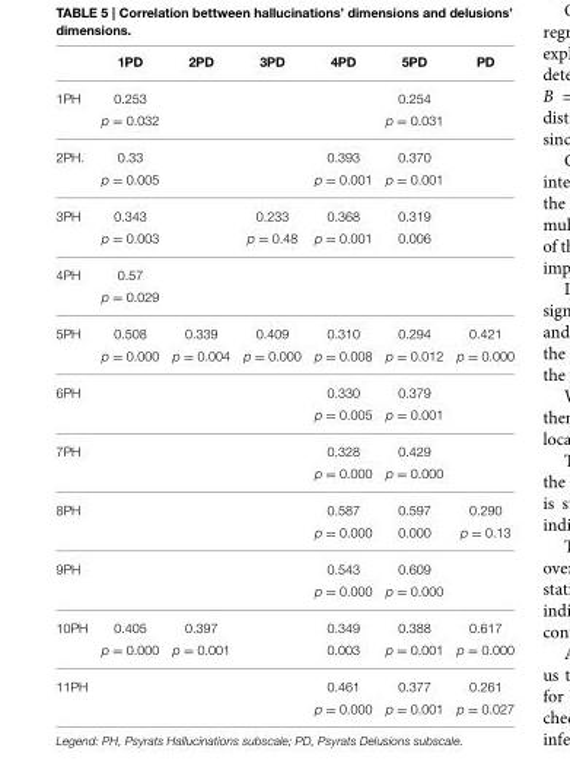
<table><thead><tr><td></td><td>1PD</td><td>2PD</td><td>3PD</td><td>4PD</td><td>5PD</td><td>PD</td></tr></thead><tbody><tr><td rowspan="2">1PH</td><td>0.253</td><td></td><td></td><td></td><td>0.254</td><td></td></tr><tr><td>p = 0.032</td><td></td><td></td><td></td><td>p = 0.031</td><td></td></tr><tr><td rowspan="2">2PH.</td><td>0.33</td><td></td><td></td><td>0.393</td><td>0.370</td><td></td></tr><tr><td>p = 0.005</td><td></td><td></td><td>p = 0.001</td><td>p = 0.001</td><td></td></tr><tr><td rowspan="2">3PH</td><td>0.343</td><td></td><td>0.233</td><td>0.368</td><td>0.319</td><td></td></tr><tr><td>p = 0.003</td><td></td><td>p = 0.48</td><td>p = 0.001</td><td>0.006</td><td></td></tr><tr><td rowspan="2">4PH</td><td>0.57</td><td></td><td></td><td></td><td></td><td></td></tr><tr><td>p = 0.029</td><td></td><td></td><td></td><td></td><td></td></tr><tr><td rowspan="2">5PH</td><td>0.508</td><td>0.339</td><td>0.409</td><td>0.310</td><td>0.294</td><td>0.421</td></tr><tr><td>p = 0.000</td><td>p = 0.004</td><td>p = 0.000</td><td>p = 0.008</td><td>p = 0.012</td><td>p = 0.000</td></tr><tr><td rowspan="2">6PH</td><td></td><td></td><td></td><td>0.330</td><td>0.379</td><td></td></tr><tr><td></td><td></td><td></td><td>p = 0.005</td><td>p = 0.001</td><td></td></tr><tr><td rowspan="2">7PH</td><td></td><td></td><td></td><td>0.328</td><td>0.429</td><td></td></tr><tr><td></td><td></td><td></td><td>p = 0.000</td><td>p = 0.000</td><td></td></tr><tr><td rowspan="2">8PH</td><td></td><td></td><td></td><td>0.587</td><td>0.597</td><td>0.290</td></tr><tr><td></td><td></td><td></td><td>p = 0.000</td><td>0.000</td><td>p = 0.13</td></tr><tr><td rowspan="2">9PH</td><td></td><td></td><td></td><td>0.543</td><td>0.609</td><td></td></tr><tr><td></td><td></td><td></td><td>p = 0.000</td><td>p = 0.000</td><td></td></tr><tr><td rowspan="2">10PH</td><td>0.405</td><td>0.397</td><td></td><td>0.349</td><td>0.388</td><td>0.617</td></tr><tr><td>p = 0.000</td><td>p = 0.001</td><td></td><td>0.003</td><td>p = 0.001</td><td>p = 0.000</td></tr><tr><td rowspan="2">11PH</td><td></td><td></td><td></td><td>0.461</td><td>0.377</td><td>0.261</td></tr><tr><td></td><td></td><td></td><td>p = 0.000</td><td>p = 0.001</td><td>p = 0.027</td></tr></tbody></table>